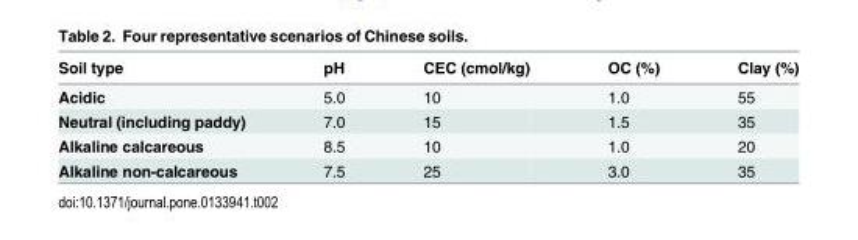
<table><thead><tr><td>Soil type</td><td>pH</td><td>CEC (cmol/kg)</td><td>OC (%)</td><td>Clay (%)</td></tr></thead><tbody><tr><td>Acidic</td><td>5.0</td><td>10</td><td>1.0</td><td>55</td></tr><tr><td>Neutral (including paddy)</td><td>7.0</td><td>15</td><td>1.5</td><td>35</td></tr><tr><td>Alkaline calcareous</td><td>8.5</td><td>10</td><td>1.0</td><td>20</td></tr><tr><td>Alkaline non-calcareous</td><td>7.5</td><td>25</td><td>3.0</td><td>35</td></tr></tbody></table>